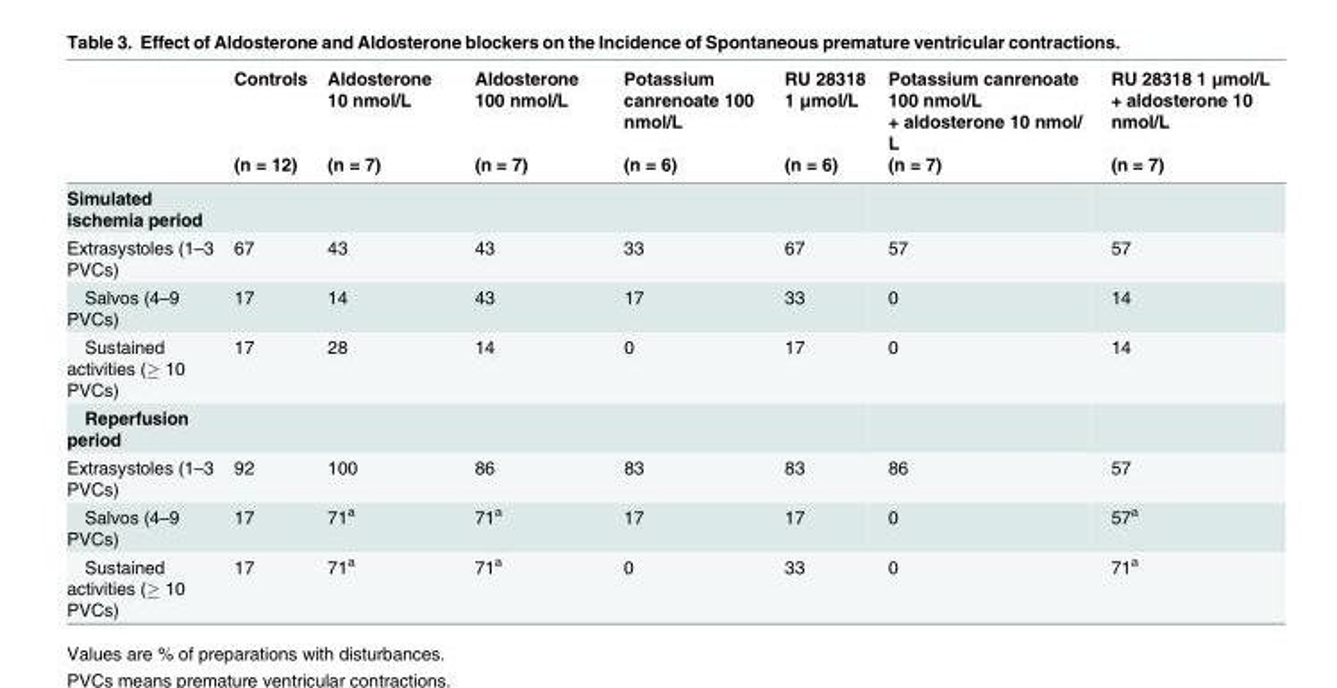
<table><thead><tr><td rowspan="2"></td><td rowspan="2">Controls (n = 12)</td><td rowspan="2">Aldosterone 10 nmol/L (n = 7)</td><td rowspan="2">Aldosterone 100 nmol/L (n = 7)</td><td rowspan="2">Potassium canrenoate 100 nmol/L (n = 6)</td><td rowspan="2">RU 28318 1 μmol/L (n = 6)</td><td rowspan="2">Potassium canrenoate 100 nmol/L + aldosterone 10 nmol/ L (n = 7)</td><td rowspan="2">RU 28318 1 μmol/L + aldosterone 10 nmol/L (n = 7)</td></tr><tr></tr></thead><tbody><tr><td colspan="8">Simulated ischemia period</td></tr><tr><td>Extrasystoles (1–3 PVCs)</td><td>67</td><td>43</td><td>43</td><td>33</td><td>67</td><td>57</td><td>57</td></tr><tr><td>Salvos (4–9 PVCs)</td><td>17</td><td>14</td><td>43</td><td>17</td><td>33</td><td>0</td><td>14</td></tr><tr><td>Sustained activities (≥ 10 PVCs)</td><td>17</td><td>28</td><td>14</td><td>0</td><td>17</td><td>0</td><td>14</td></tr><tr><td colspan="8">Reperfusion period</td></tr><tr><td>Extrasystoles (1–3 PVCs)</td><td>92</td><td>100</td><td>86</td><td>83</td><td>83</td><td>86</td><td>57</td></tr><tr><td>Salvos (4–9 PVCs)</td><td>17</td><td>71<sup>a</sup></td><td>71<sup>a</sup></td><td>17</td><td>17</td><td>0</td><td>57<sup>a</sup></td></tr><tr><td>Sustained activities (≥ 10 PVCs)</td><td>17</td><td>71<sup>a</sup></td><td>71<sup>a</sup></td><td>0</td><td>33</td><td>0</td><td>71<sup>a</sup></td></tr></tbody></table>